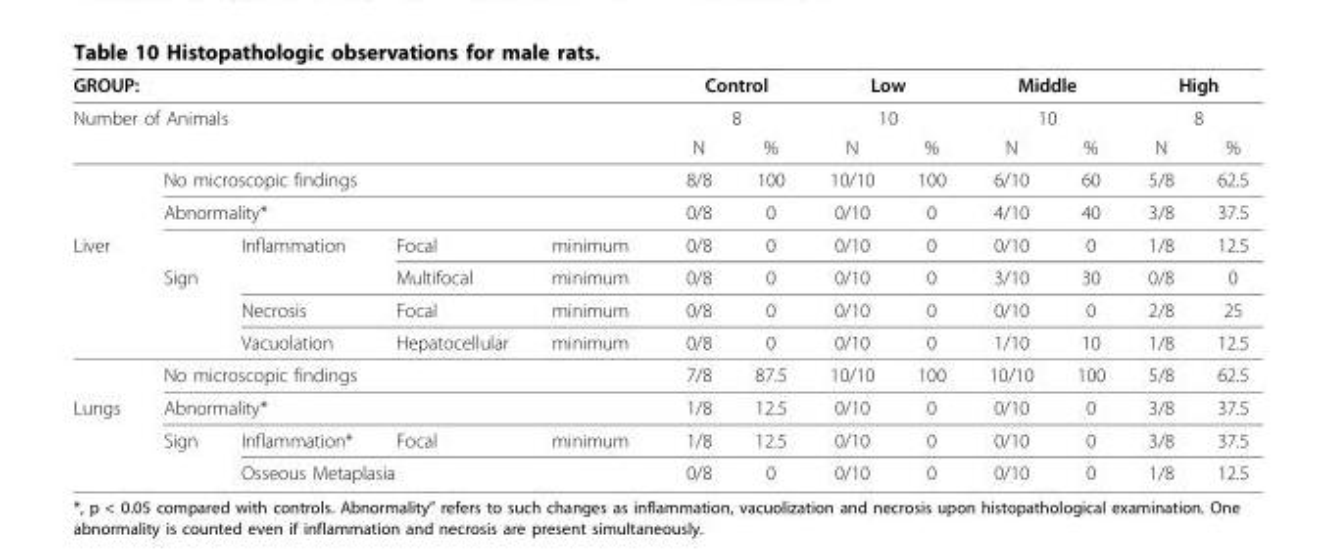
<table><thead><tr><td rowspan="2" colspan="5">GROUP: Number of Animals</td><td rowspan="2" colspan="2">Control 8</td><td rowspan="2" colspan="2">Low 10</td><td rowspan="2" colspan="2">Middle 10</td><td rowspan="2" colspan="2">High 8</td></tr><tr></tr><tr><td></td><td></td><td></td><td></td><td></td><td>N</td><td>%</td><td>N</td><td>%</td><td>N</td><td>%</td><td>N</td><td>%</td></tr></thead><tbody><tr><td></td><td colspan="4">No microscopic findings</td><td>8/8</td><td>100</td><td>10/10</td><td>100</td><td>6/10</td><td>60</td><td>5/8</td><td>62.5</td></tr><tr><td></td><td colspan="4">Abnormality*</td><td>0/8</td><td>0</td><td>0/10</td><td>0</td><td>4/10</td><td>40</td><td>3/8</td><td>37.5</td></tr><tr><td rowspan="5">Liver</td><td></td><td>Inflammation</td><td>Focal</td><td>minimum</td><td>0/8</td><td>0</td><td>0/10</td><td>0</td><td>0/10</td><td>0</td><td>1/8</td><td>12.5</td></tr><tr><td>Sign</td><td></td><td>Multifocal</td><td>minimum</td><td>0/8</td><td>0</td><td>0/10</td><td>0</td><td>3/10</td><td>30</td><td>0/8</td><td>0</td></tr><tr><td></td><td>Necrosis</td><td>Focal</td><td>minimum</td><td>0/8</td><td>0</td><td>0/10</td><td>0</td><td>0/10</td><td>0</td><td>2/8</td><td>25</td></tr><tr><td></td><td>Vacuolation</td><td>Hepatocellular</td><td>minimum</td><td>0/8</td><td>0</td><td>0/10</td><td>0</td><td>1/10</td><td>10</td><td>1/8</td><td>12.5</td></tr><tr><td colspan="4">No microscopic findings</td><td>7/8</td><td>87.5</td><td>10/10</td><td>100</td><td>10/10</td><td>100</td><td>5/8</td><td>62.5</td></tr><tr><td rowspan="3">Lungs</td><td colspan="4">Abnormality*</td><td>1/8</td><td>12.5</td><td>0/10</td><td>0</td><td>0/10</td><td>0</td><td>3/8</td><td>37.5</td></tr><tr><td>Sign</td><td>Inflammation*</td><td>Focal</td><td>minimum</td><td>1/8</td><td>12.5</td><td>0/10</td><td>0</td><td>0/10</td><td>0</td><td>3/8</td><td>37.5</td></tr><tr><td></td><td colspan="3">Osseous Metaplasia</td><td>0/8</td><td>0</td><td>0/10</td><td>0</td><td>0/10</td><td>0</td><td>1/8</td><td>12.5</td></tr></tbody></table>